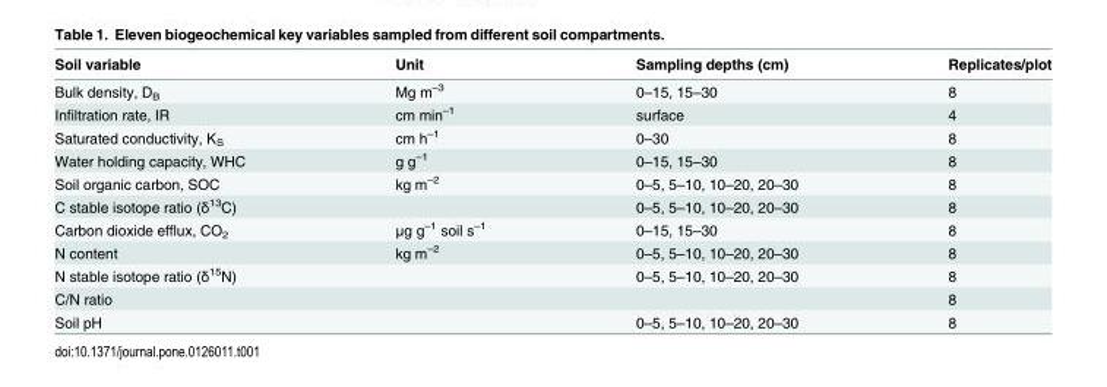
<table><thead><tr><td>Soil variable</td><td>Unit</td><td>Sampling depths (cm)</td><td>Replicates/plot</td></tr></thead><tbody><tr><td>Bulk density, D<sub>B</sub></td><td>Mg m<sup>–3</sup></td><td>0–15, 15–30</td><td>8</td></tr><tr><td>Infiltration rate, IR</td><td>cm min<sup>–1</sup></td><td>surface</td><td>4</td></tr><tr><td>Saturated conductivity, K<sub>S</sub></td><td>cm h<sup>–1</sup></td><td>0–30</td><td>8</td></tr><tr><td>Water holding capacity, WHC</td><td>g g<sup>–1</sup></td><td>0–15, 15–30</td><td>8</td></tr><tr><td>Soil organic carbon, SOC</td><td>kg m<sup>–2</sup></td><td>0–5, 5–10, 10–20, 20–30</td><td>8</td></tr><tr><td>C stable isotope ratio (δ<sup>13</sup>C)</td><td></td><td>0–5, 5–10, 10–20, 20–30</td><td>8</td></tr><tr><td>Carbon dioxide efflux, CO<sub>2</sub></td><td>μg g<sup>–1</sup> soil s<sup>–1</sup></td><td>0–15, 15–30</td><td>8</td></tr><tr><td>N content</td><td>kg m<sup>–2</sup></td><td>0–5, 5–10, 10–20, 20–30</td><td>8</td></tr><tr><td>N stable isotope ratio (δ<sup>15</sup>N)</td><td></td><td>0–5, 5–10, 10–20, 20–30</td><td>8</td></tr><tr><td>C/N ratio</td><td></td><td></td><td>8</td></tr><tr><td>Soil pH</td><td></td><td>0–5, 5–10, 10–20, 20–30</td><td>8</td></tr></tbody></table>